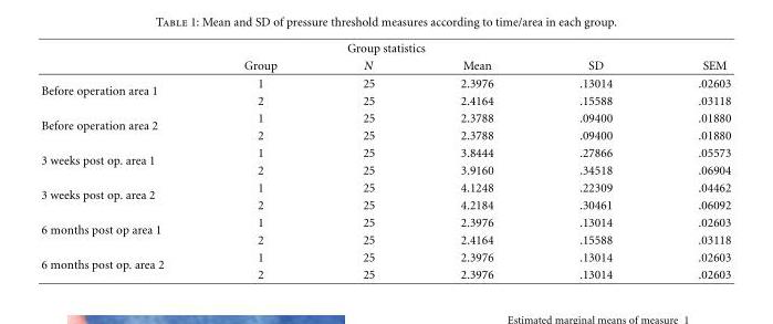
<table><thead><tr><td colspan="6">Group statistics</td></tr><tr><td></td><td>Group</td><td>N</td><td>Mean</td><td>SD</td><td>SEM</td></tr></thead><tbody><tr><td rowspan="2">Before operation area 1</td><td>1</td><td>25</td><td>2.3976</td><td>.13014</td><td>.02603</td></tr><tr><td>2</td><td>25</td><td>2.4164</td><td>.15588</td><td>.03118</td></tr><tr><td rowspan="2">Before operation area 2</td><td>1</td><td>25</td><td>2.3788</td><td>.09400</td><td>.01880</td></tr><tr><td>2</td><td>25</td><td>2.3788</td><td>.09400</td><td>.01880</td></tr><tr><td rowspan="2">3 weeks post op. area 1</td><td>1</td><td>25</td><td>3.8444</td><td>.27866</td><td>.05573</td></tr><tr><td>2</td><td>25</td><td>3.9160</td><td>.34518</td><td>.06904</td></tr><tr><td rowspan="2">3 weeks post op. area 2</td><td>1</td><td>25</td><td>4.1248</td><td>.22309</td><td>.04462</td></tr><tr><td>2</td><td>25</td><td>4.2184</td><td>.30461</td><td>.06092</td></tr><tr><td rowspan="2">6 months post op area 1</td><td>1</td><td>25</td><td>2.3976</td><td>.13014</td><td>.02603</td></tr><tr><td>2</td><td>25</td><td>2.4164</td><td>.15588</td><td>.03118</td></tr><tr><td rowspan="2">6 months post op. area 2</td><td>1</td><td>25</td><td>2.3976</td><td>.13014</td><td>.02603</td></tr><tr><td>2</td><td>25</td><td>2.3976</td><td>.13014</td><td>.02603</td></tr></tbody></table>